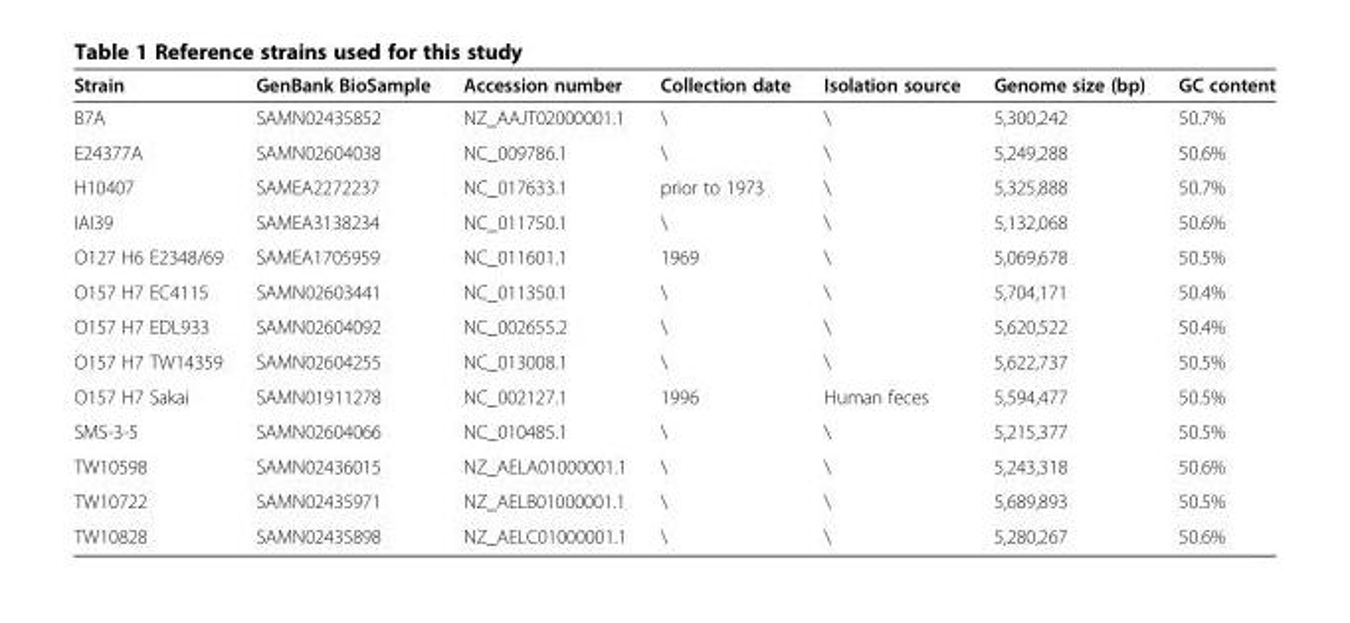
<table><thead><tr><td>Strain</td><td>GenBank BioSample</td><td>Accession number</td><td>Collection date</td><td>Isolation source</td><td>Genome size (bp)</td><td>GC content</td></tr></thead><tbody><tr><td>B7A</td><td>SAMN02435852</td><td>NZ_AAJT02000001.1</td><td>\</td><td>\</td><td>5,300,242</td><td>50.7%</td></tr><tr><td>E24377A</td><td>SAMN02604038</td><td>NC_009786.1</td><td>\</td><td>\</td><td>5,249,288</td><td>50.6%</td></tr><tr><td>H10407</td><td>SAMEA2272237</td><td>NC_017633.1</td><td>prior to 1973</td><td>\</td><td>5,325,888</td><td>50.7%</td></tr><tr><td>IAI39</td><td>SAMEA3138234</td><td>NC_011750.1</td><td>\</td><td>\</td><td>5,132,068</td><td>50.6%</td></tr><tr><td>O127 H6 E2348/69</td><td>SAMEA1705959</td><td>NC_011601.1</td><td>1969</td><td>\</td><td>5,069,678</td><td>50.5%</td></tr><tr><td>O157 H7 EC4115</td><td>SAMN02603441</td><td>NC_011350.1</td><td>\</td><td>\</td><td>5,704,171</td><td>50.4%</td></tr><tr><td>O157 H7 EDL933</td><td>SAMN02604092</td><td>NC_002655.2</td><td>\</td><td>\</td><td>5,620,522</td><td>50.4%</td></tr><tr><td>O157 H7 TW14359</td><td>SAMN02604255</td><td>NC_013008.1</td><td>\</td><td>\</td><td>5,622,737</td><td>50.5%</td></tr><tr><td>O157 H7 Sakai</td><td>SAMN01911278</td><td>NC_002127.1</td><td>1996</td><td>Human feces</td><td>5,594,477</td><td>50.5%</td></tr><tr><td>SMS-3-5</td><td>SAMN02604066</td><td>NC_010485.1</td><td>\</td><td>\</td><td>5,215,377</td><td>50.5%</td></tr><tr><td>TW10598</td><td>SAMN02436015</td><td>NZ_AELA01000001.1</td><td>\</td><td>\</td><td>5,243,318</td><td>50.6%</td></tr><tr><td>TW10722</td><td>SAMN02435971</td><td>NZ_AELB01000001.1</td><td>\</td><td>\</td><td>5,689,893</td><td>50.5%</td></tr><tr><td>TW10828</td><td>SAMN02435898</td><td>NZ_AELC01000001.1</td><td>\</td><td>\</td><td>5,280,267</td><td>50.6%</td></tr></tbody></table>